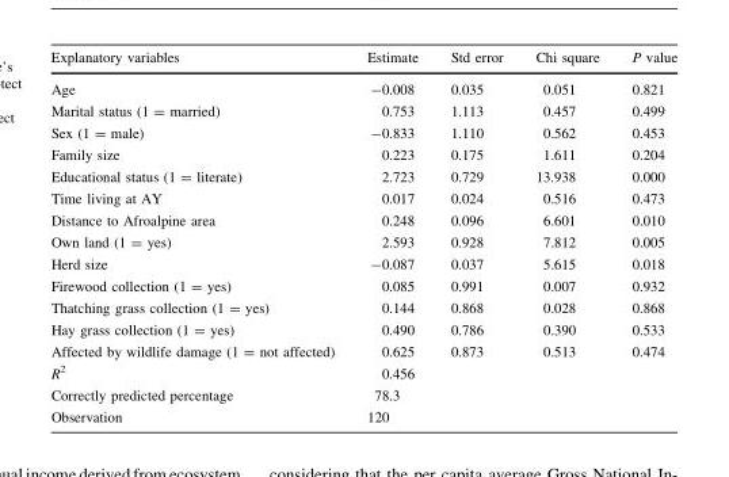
<table><thead><tr><td>Explanatory variables</td><td>Estimate</td><td>Std error</td><td>Chi square</td><td>P value</td></tr></thead><tbody><tr><td>Age</td><td>-0.008</td><td>0.035</td><td>0.051</td><td>0.821</td></tr><tr><td>Marital status (1 = married)</td><td>0.753</td><td>1.113</td><td>0.457</td><td>0.499</td></tr><tr><td>Sex (1 = male)</td><td>-0.833</td><td>1.110</td><td>0.562</td><td>0.453</td></tr><tr><td>Family size</td><td>0.223</td><td>0.175</td><td>1.611</td><td>0.204</td></tr><tr><td>Educational status (1 = literate)</td><td>2.723</td><td>0.729</td><td>13.938</td><td>0.000</td></tr><tr><td>Time living at AY</td><td>0.017</td><td>0.024</td><td>0.516</td><td>0.473</td></tr><tr><td>Distance to Afroalpine area</td><td>0.248</td><td>0.096</td><td>6.601</td><td>0.010</td></tr><tr><td>Own land (1 = yes)</td><td>2.593</td><td>0.928</td><td>7.812</td><td>0.005</td></tr><tr><td>Herd size</td><td>-0.087</td><td>0.037</td><td>5.615</td><td>0.018</td></tr><tr><td>Firewood collection (1 = yes)</td><td>0.085</td><td>0.991</td><td>0.007</td><td>0.932</td></tr><tr><td>Thatching grass collection (1 = yes)</td><td>0.144</td><td>0.868</td><td>0.028</td><td>0.868</td></tr><tr><td>Hay grass collection (1 = yes)</td><td>0.490</td><td>0.786</td><td>0.390</td><td>0.533</td></tr><tr><td>Affected by wildlife damage (1 = not affected)</td><td>0.625</td><td>0.873</td><td>0.513</td><td>0.474</td></tr><tr><td>R<sup>2</sup></td><td>0.456</td><td></td><td></td><td></td></tr><tr><td>Correctly predicted percentage</td><td>78.3</td><td></td><td></td><td></td></tr><tr><td>Observation</td><td>120</td><td></td><td></td><td></td></tr></tbody></table>